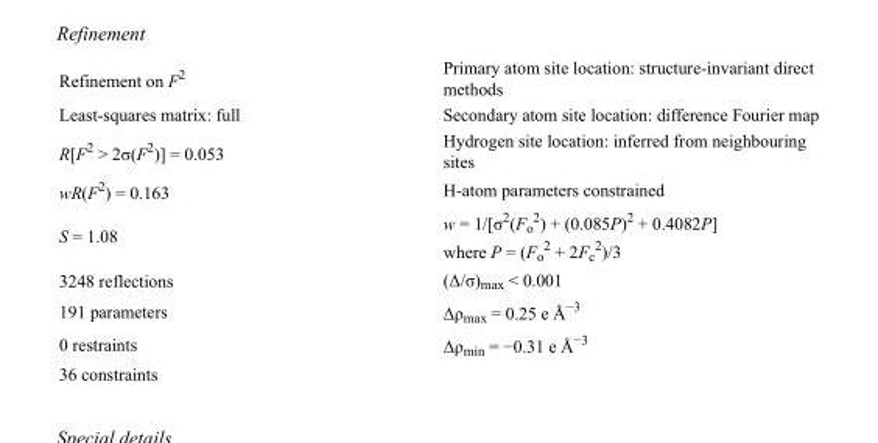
<table><tbody><tr><td>Refinement on F<sup>2</sup></td><td>Primary atom site location: structure-invariant direct methods</td></tr><tr><td>Least-squares matrix: full</td><td>Secondary atom site location: difference Fourier map</td></tr><tr><td>R[F<sup>2</sup> &gt; 2σ(F<sup>2</sup>)] = 0.053</td><td>Hydrogen site location: inferred from neighbouring sites</td></tr><tr><td>wR(F<sup>2</sup>) = 0.163</td><td>H-atom parameters constrained</td></tr><tr><td>S = 1.08</td><td>w = 1/[σ<sup>2</sup>(F<sub>o</sub> <sup>2</sup>) + (0.085P)<sup>2</sup> + 0.4082P] where P = (F<sub>o</sub> <sup>2</sup> + 2F<sub>c</sub> <sup>2</sup>)/3</td></tr><tr><td>3248 reflections</td><td>(Δ/σ)<sub>max</sub> &lt; 0.001</td></tr><tr><td>191 parameters</td><td>Δρ<sub>max</sub> = 0.25 e Å<sup>−3</sup></td></tr><tr><td>0 restraints</td><td>Δρ<sub>min</sub> = −0.31 e Å<sup>−3</sup></td></tr><tr><td>36 constraints</td><td></td></tr></tbody></table>